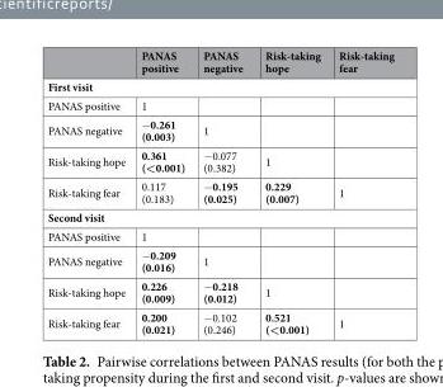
<table><thead><tr><td></td><td>PANAS positive</td><td>PANAS negative</td><td>Risk-taking hope</td><td>Risk-taking fear</td></tr></thead><tbody><tr><td colspan="5">First visit</td></tr><tr><td>PANAS positive</td><td>1</td><td></td><td></td><td></td></tr><tr><td>PANAS negative</td><td>−0.261 (0.003)</td><td>1</td><td></td><td></td></tr><tr><td>Risk-taking hope</td><td>0.361 (&lt;0.001)</td><td>−0.077 (0.382)</td><td>1</td><td></td></tr><tr><td>Risk-taking fear</td><td>0.117 (0.183)</td><td>−0.195 (0.025)</td><td>0.229 (0.007)</td><td>1</td></tr><tr><td colspan="5">Second visit</td></tr><tr><td>PANAS positive</td><td>1</td><td></td><td></td><td></td></tr><tr><td>PANAS negative</td><td>−0.209 (0.016)</td><td>1</td><td></td><td></td></tr><tr><td>Risk-taking hope</td><td>0.226 (0.009)</td><td>−0.218 (0.012)</td><td>1</td><td></td></tr><tr><td>Risk-taking fear</td><td>0.200 (0.021)</td><td>−0.102 (0.246)</td><td>0.521 (&lt;0.001)</td><td>1</td></tr></tbody></table>